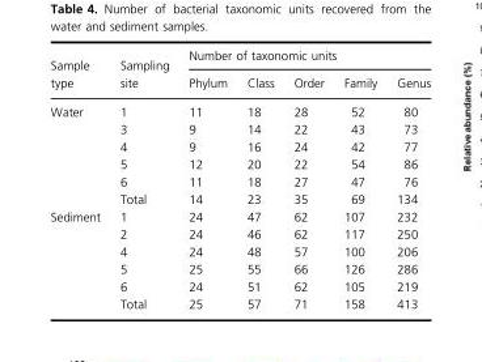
<table><thead><tr><td rowspan="2">Sample type</td><td rowspan="2">Sampling site</td><td colspan="5">Number of taxonomic units</td></tr><tr><td>Phylum</td><td>Class</td><td>Order</td><td>Family</td><td>Genus</td></tr></thead><tbody><tr><td rowspan="6">Water</td><td>1</td><td>11</td><td>18</td><td>28</td><td>52</td><td>80</td></tr><tr><td>3</td><td>9</td><td>14</td><td>22</td><td>43</td><td>73</td></tr><tr><td>4</td><td>9</td><td>16</td><td>24</td><td>42</td><td>77</td></tr><tr><td>5</td><td>12</td><td>20</td><td>22</td><td>54</td><td>86</td></tr><tr><td>6</td><td>11</td><td>18</td><td>27</td><td>47</td><td>76</td></tr><tr><td>Total</td><td>14</td><td>23</td><td>35</td><td>69</td><td>134</td></tr><tr><td rowspan="6">Sediment</td><td>1</td><td>24</td><td>47</td><td>62</td><td>107</td><td>232</td></tr><tr><td>2</td><td>24</td><td>46</td><td>62</td><td>117</td><td>250</td></tr><tr><td>4</td><td>24</td><td>48</td><td>57</td><td>100</td><td>206</td></tr><tr><td>5</td><td>25</td><td>55</td><td>66</td><td>126</td><td>286</td></tr><tr><td>6</td><td>24</td><td>51</td><td>62</td><td>105</td><td>219</td></tr><tr><td>Total</td><td>25</td><td>57</td><td>71</td><td>158</td><td>413</td></tr></tbody></table>